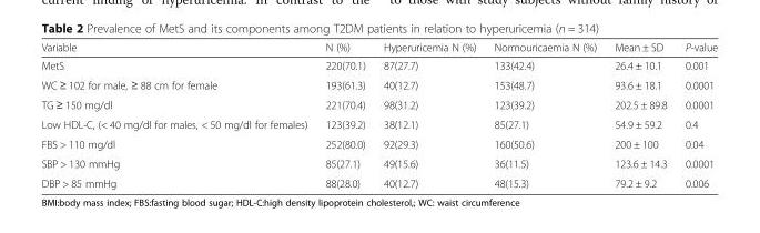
<table><thead><tr><td>Variable</td><td>N (%)</td><td>Hyperuricemia N (%)</td><td>Normouricaemia N (%)</td><td>Mean ± SD</td><td>P-value</td></tr></thead><tbody><tr><td>MetS</td><td>220(70.1)</td><td>87(27.7)</td><td>133(42.4)</td><td>26.4 ± 10.1</td><td>0.001</td></tr><tr><td>WC ≥ 102 for male, ≥ 88 cm for female</td><td>193(61.3)</td><td>40(12.7)</td><td>153(48.7)</td><td>93.6 ± 18.1</td><td>0.0001</td></tr><tr><td>TG ≥ 150 mg/dl</td><td>221(70.4)</td><td>98(31.2)</td><td>123(39.2)</td><td>202.5 ± 89.8</td><td>0.0001</td></tr><tr><td>Low HDL-C, (&lt; 40 mg/dl for males, &lt; 50 mg/dl for females)</td><td>123(39.2)</td><td>38(12.1)</td><td>85(27.1)</td><td>54.9 ± 59.2</td><td>0.4</td></tr><tr><td>FBS &gt; 110 mg/dl</td><td>252(80.0)</td><td>92(29.3)</td><td>160(50.6)</td><td>200 ± 100</td><td>0.04</td></tr><tr><td>SBP &gt; 130 mmHg</td><td>85(27.1)</td><td>49(15.6)</td><td>36(11.5)</td><td>123.6 ± 14.3</td><td>0.0001</td></tr><tr><td>DBP &gt; 85 mmHg</td><td>88(28.0)</td><td>40(12.7)</td><td>48(15.3)</td><td>79.2 ± 9.2</td><td>0.006</td></tr></tbody></table>